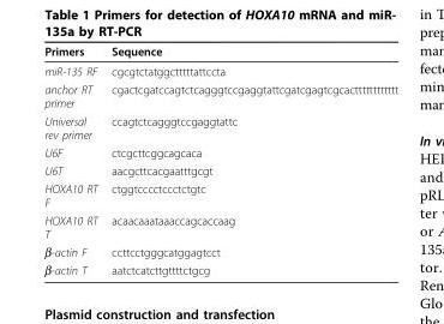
<table><thead><tr><td>Primers</td><td>Sequence</td></tr></thead><tbody><tr><td>miR-135 RF</td><td>cgcgtctatggctttttattccta</td></tr><tr><td>anchor RT primer</td><td>cgactcgatccagtctcagggtccgaggtattcgatcgagtcgcactttttttttttt</td></tr><tr><td>Universal rev primer</td><td>ccagtctcagggtccgaggtattc</td></tr><tr><td>U6F</td><td>ctcgcttcggcagcaca</td></tr><tr><td>U6T</td><td>aacgcttcacgaatttgcgt</td></tr><tr><td>HOXA10 RT F</td><td>ctggtcccctccctctgtc</td></tr><tr><td>HOXA10 RT T</td><td>acaacaaataaaccagcaccaag</td></tr><tr><td>β-actin F</td><td>ccttcctgggcatggagtcct</td></tr><tr><td>β-actin T</td><td>aatctcatcttgttttctgcg</td></tr></tbody></table>